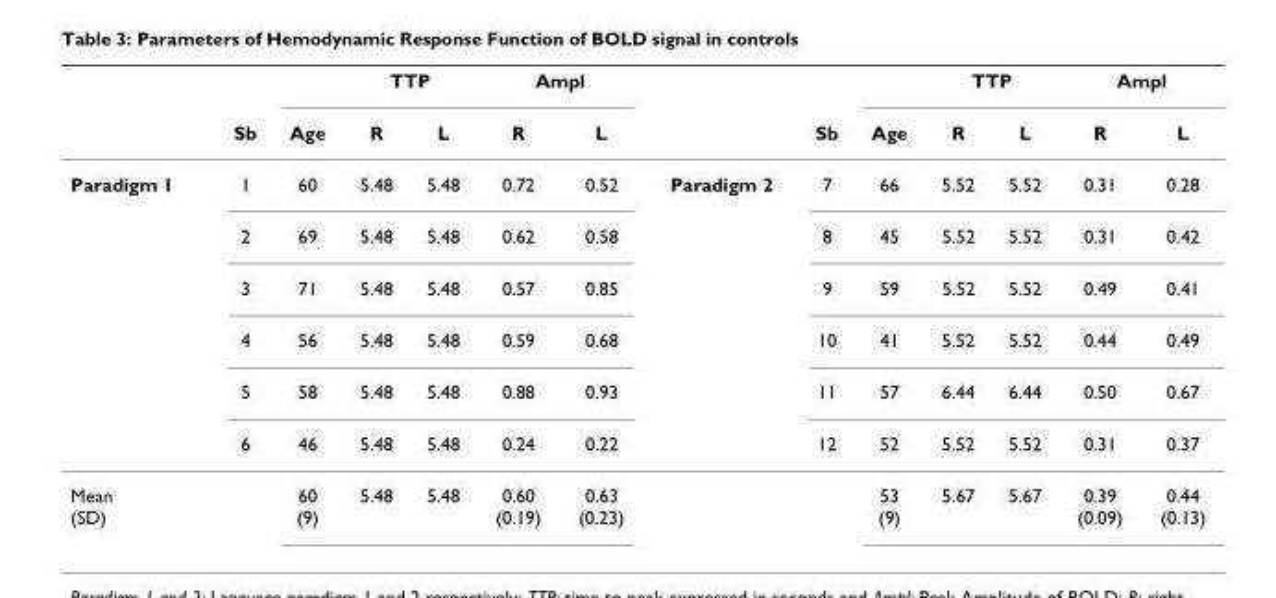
<table><thead><tr><td rowspan="2"></td><td rowspan="2">Sb</td><td rowspan="2">Age</td><td colspan="2">TTP</td><td colspan="2">Ampl</td><td rowspan="2"></td><td rowspan="2">Sb</td><td rowspan="2">Age</td><td colspan="2">TTP</td><td colspan="2">Ampl</td></tr><tr><td>R</td><td>L</td><td>R</td><td>L</td><td>R</td><td>L</td><td>R</td><td>L</td></tr></thead><tbody><tr><td rowspan="6">Paradigm 1</td><td>1</td><td>60</td><td>5.48</td><td>5.48</td><td>0.72</td><td>0.52</td><td>Paradigm 2</td><td>7</td><td>66</td><td>5.52</td><td>5.52</td><td>0.31</td><td>0.28</td></tr><tr><td>2</td><td>69</td><td>5.48</td><td>5.48</td><td>0.62</td><td>0.58</td><td></td><td>8</td><td>45</td><td>5.52</td><td>5.52</td><td>0.31</td><td>0.42</td></tr><tr><td>3</td><td>71</td><td>5.48</td><td>5.48</td><td>0.57</td><td>0.85</td><td></td><td>9</td><td>59</td><td>5.52</td><td>5.52</td><td>0.49</td><td>0.41</td></tr><tr><td>4</td><td>56</td><td>5.48</td><td>5.48</td><td>0.59</td><td>0.68</td><td></td><td>10</td><td>41</td><td>5.52</td><td>5.52</td><td>0.44</td><td>0.49</td></tr><tr><td>5</td><td>58</td><td>5.48</td><td>5.48</td><td>0.88</td><td>0.93</td><td></td><td>11</td><td>57</td><td>6.44</td><td>6.44</td><td>0.50</td><td>0.67</td></tr><tr><td>6</td><td>46</td><td>5.48</td><td>5.48</td><td>0.24</td><td>0.22</td><td></td><td>12</td><td>52</td><td>5.52</td><td>5.52</td><td>0.31</td><td>0.37</td></tr><tr><td colspan="2">Mean (SD)</td><td>60 (9)</td><td>5.48</td><td>5.48</td><td>0.60 (0.19)</td><td>0.63 (0.23)</td><td></td><td></td><td>53 (9)</td><td>5.67</td><td>5.67</td><td>0.39 (0.09)</td><td>0.44 (0.13)</td></tr></tbody></table>